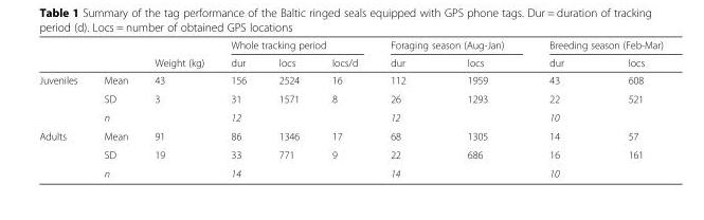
<table><thead><tr><td rowspan="2"></td><td rowspan="2"></td><td rowspan="2">Weight (kg)</td><td colspan="3">Whole tracking period</td><td colspan="2">Foraging season (Aug-Jan)</td><td colspan="2">Breeding season (Feb-Mar)</td></tr><tr><td>dur</td><td>locs</td><td>locs/d</td><td>dur</td><td>locs</td><td>dur</td><td>locs</td></tr></thead><tbody><tr><td rowspan="3">Juveniles</td><td>Mean</td><td>43</td><td>156</td><td>2524</td><td>16</td><td>112</td><td>1959</td><td>43</td><td>608</td></tr><tr><td>SD</td><td>3</td><td>31</td><td>1571</td><td>8</td><td>26</td><td>1293</td><td>22</td><td>521</td></tr><tr><td>n</td><td></td><td colspan="3">12</td><td colspan="2">12</td><td colspan="2">10</td></tr><tr><td rowspan="3">Adults</td><td>Mean</td><td>91</td><td>86</td><td>1346</td><td>17</td><td>68</td><td>1305</td><td>14</td><td>57</td></tr><tr><td>SD</td><td>19</td><td>33</td><td>771</td><td>9</td><td>22</td><td>686</td><td>16</td><td>161</td></tr><tr><td>n</td><td></td><td colspan="3">14</td><td colspan="2">14</td><td colspan="2">10</td></tr></tbody></table>